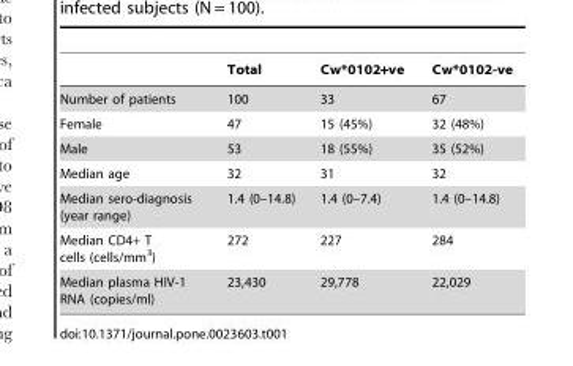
<table><thead><tr><td></td><td>Total</td><td>Cw*0102+ve</td><td>Cw*0102-ve</td></tr></thead><tbody><tr><td>Number of patients</td><td>100</td><td>33</td><td>67</td></tr><tr><td>Female</td><td>47</td><td>15 (45%)</td><td>32 (48%)</td></tr><tr><td>Male</td><td>53</td><td>18 (55%)</td><td>35 (52%)</td></tr><tr><td>Median age</td><td>32</td><td>31</td><td>32</td></tr><tr><td>Median sero-diagnosis (year range)</td><td>1.4 (0–14.8)</td><td>1.4 (0–7.4)</td><td>1.4 (0–14.8)</td></tr><tr><td>Median CD4+ T cells (cells/mm<sup>3</sup>)</td><td>272</td><td>227</td><td>284</td></tr><tr><td>Median plasma HIV-1 RNA (copies/ml)</td><td>23,430</td><td>29,778</td><td>22,029</td></tr></tbody></table>